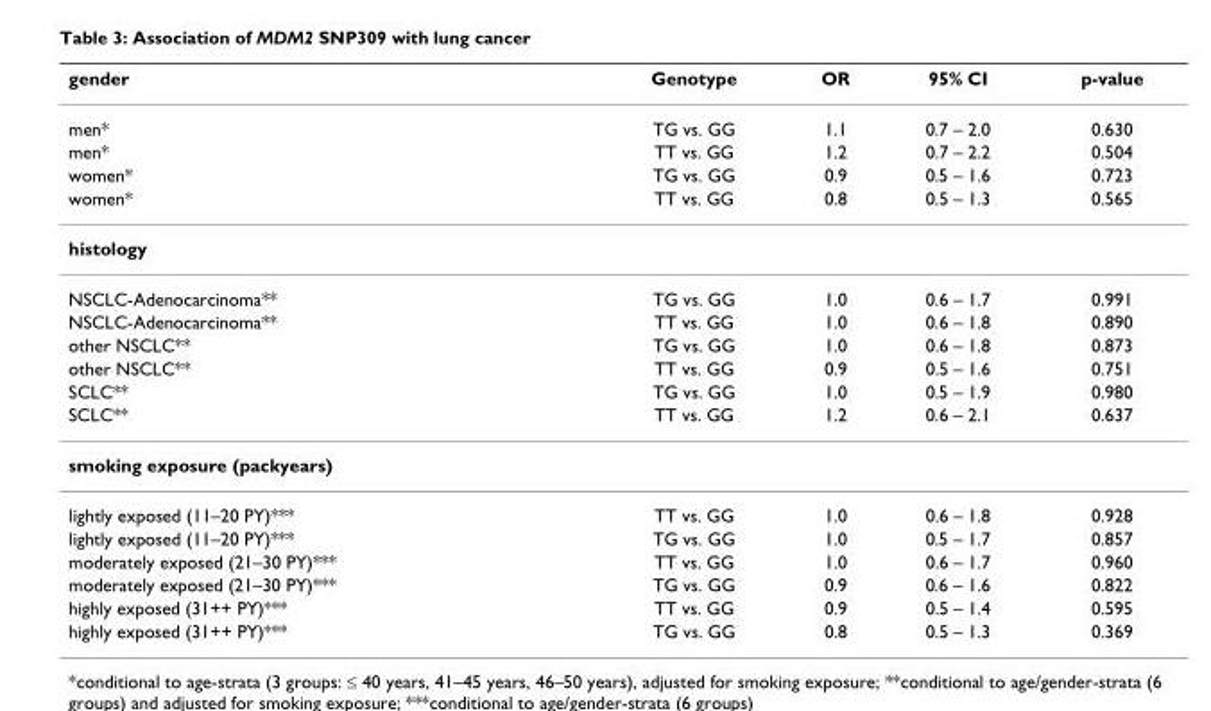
<table><thead><tr><td>gender</td><td>Genotype</td><td>OR</td><td>95% CI</td><td>p-value</td></tr></thead><tbody><tr><td>men*</td><td>TG vs. GG</td><td>1.1</td><td>0.7 – 2.0</td><td>0.630</td></tr><tr><td>men*</td><td>TT vs. GG</td><td>1.2</td><td>0.7 – 2.2</td><td>0.504</td></tr><tr><td>women*</td><td>TG vs. GG</td><td>0.9</td><td>0.5 – 1.6</td><td>0.723</td></tr><tr><td>women*</td><td>TT vs. GG</td><td>0.8</td><td>0.5 – 1.3</td><td>0.565</td></tr><tr><td colspan="5">histology</td></tr><tr><td>NSCLC-Adenocarcinoma**</td><td>TG vs. GG</td><td>1.0</td><td>0.6 – 1.7</td><td>0.991</td></tr><tr><td>NSCLC-Adenocarcinoma**</td><td>TT vs. GG</td><td>1.0</td><td>0.6 – 1.8</td><td>0.890</td></tr><tr><td>other NSCLC**</td><td>TG vs. GG</td><td>1.0</td><td>0.6 – 1.8</td><td>0.873</td></tr><tr><td>other NSCLC**</td><td>TT vs. GG</td><td>0.9</td><td>0.5 – 1.6</td><td>0.751</td></tr><tr><td>SCLC**</td><td>TG vs. GG</td><td>1.0</td><td>0.5 – 1.9</td><td>0.980</td></tr><tr><td>SCLC**</td><td>TT vs. GG</td><td>1.2</td><td>0.6 – 2.1</td><td>0.637</td></tr><tr><td colspan="5">smoking exposure (packyears)</td></tr><tr><td>lightly exposed (11–20 PY)***</td><td>TT vs. GG</td><td>1.0</td><td>0.6 – 1.8</td><td>0.928</td></tr><tr><td>lightly exposed (11–20 PY)***</td><td>TG vs. GG</td><td>1.0</td><td>0.5 – 1.7</td><td>0.857</td></tr><tr><td>moderately exposed (21–30 PY)***</td><td>TT vs. GG</td><td>1.0</td><td>0.6 – 1.7</td><td>0.960</td></tr><tr><td>moderately exposed (21–30 PY)***</td><td>TG vs. GG</td><td>0.9</td><td>0.6 – 1.6</td><td>0.822</td></tr><tr><td>highly exposed (31++ PY)***</td><td>TT vs. GG</td><td>0.9</td><td>0.5 – 1.4</td><td>0.595</td></tr><tr><td>highly exposed (31++ PY)***</td><td>TG vs. GG</td><td>0.8</td><td>0.5 – 1.3</td><td>0.369</td></tr></tbody></table>